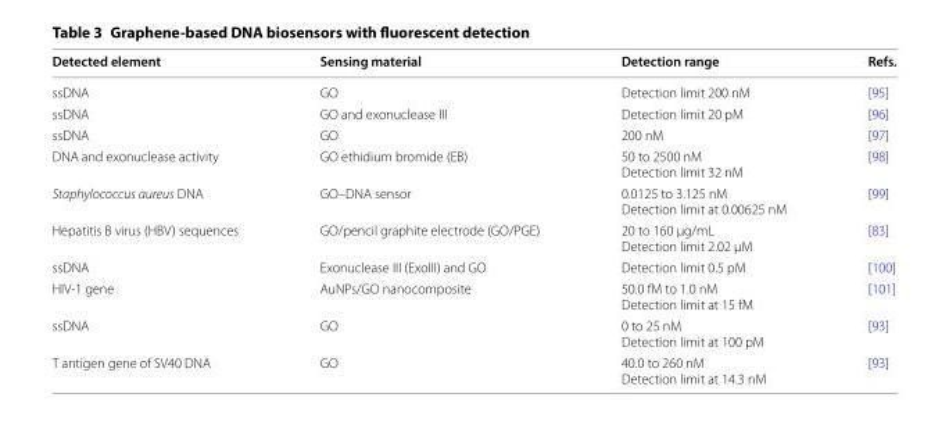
<table><thead><tr><td>Detected element</td><td>Sensing material</td><td>Detection range</td><td>Refs.</td></tr></thead><tbody><tr><td>ssDNA</td><td>GO</td><td>Detection limit 200 nM</td><td>[95]</td></tr><tr><td>ssDNA</td><td>GO and exonuclease III</td><td>Detection limit 20 pM</td><td>[96]</td></tr><tr><td>ssDNA</td><td>GO</td><td>200 nM</td><td>[97]</td></tr><tr><td>DNA and exonuclease activity</td><td>GO ethidium bromide (EB)</td><td>50 to 2500 nM Detection limit 32 nM</td><td>[98]</td></tr><tr><td>Staphylococcus aureus DNA</td><td>GO–DNA sensor</td><td>0.0125 to 3.125 nM Detection limit at 0.00625 nM</td><td>[99]</td></tr><tr><td>Hepatitis B virus (HBV) sequences</td><td>GO/pencil graphite electrode (GO/PGE)</td><td>20 to 160 µg/mL Detection limit 2.02 µM</td><td>[83]</td></tr><tr><td>ssDNA</td><td>Exonuclease III (ExoIII) and GO</td><td>Detection limit 0.5 pM</td><td>[100]</td></tr><tr><td>HIV‑1 gene</td><td>AuNPs/GO nanocomposite</td><td>50.0 fM to 1.0 nM Detection limit at 15 fM</td><td>[101]</td></tr><tr><td>ssDNA</td><td>GO</td><td>0 to 25 nM Detection limit at 100 pM</td><td>[93]</td></tr><tr><td>T antigen gene of SV40 DNA</td><td>GO</td><td>40.0 to 260 nM Detection limit at 14.3 nM</td><td>[93]</td></tr></tbody></table>